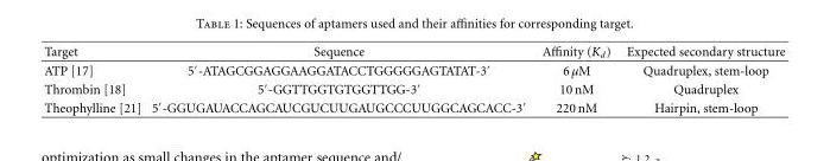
<table><thead><tr><td>Target</td><td>Sequence</td><td>Affinity (K<sub>d</sub>)</td><td>Expected secondary structure</td></tr></thead><tbody><tr><td>ATP [17]</td><td>5′-ATAGCGGAGGAAGGATACCTGGGGGAGTATAT-3′</td><td>6 μM</td><td>Quadruplex, stem-loop</td></tr><tr><td>Thrombin [18]</td><td>5′-GGTTGGTGTGGTTGG-3′</td><td>10 nM</td><td>Quadruplex</td></tr><tr><td>Theophylline [21]</td><td>5′-GGUGAUACCAGCAUCGUCUUGAUGCCCUUGGCAGCACC-3′</td><td>220 nM</td><td>Hairpin, stem-loop</td></tr></tbody></table>